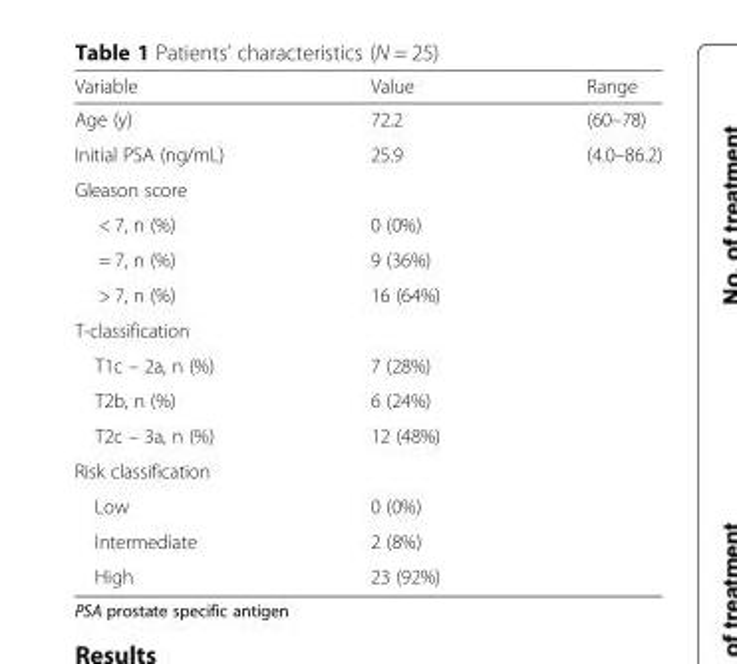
<table><thead><tr><td>Variable</td><td>Value</td><td>Range</td></tr></thead><tbody><tr><td>Age (y)</td><td>72.2</td><td>(60–78)</td></tr><tr><td>Initial PSA (ng/mL)</td><td>25.9</td><td>(4.0–86.2)</td></tr><tr><td colspan="3">Gleason score</td></tr><tr><td>&lt; 7, n (%)</td><td>0 (0%)</td><td></td></tr><tr><td>= 7, n (%)</td><td>9 (36%)</td><td></td></tr><tr><td>&gt; 7, n (%)</td><td>16 (64%)</td><td></td></tr><tr><td colspan="3">T-classification</td></tr><tr><td>T1c – 2a, n (%)</td><td>7 (28%)</td><td></td></tr><tr><td>T2b, n (%)</td><td>6 (24%)</td><td></td></tr><tr><td>T2c – 3a, n (%)</td><td>12 (48%)</td><td></td></tr><tr><td colspan="3">Risk classification</td></tr><tr><td>Low</td><td>0 (0%)</td><td></td></tr><tr><td>Intermediate</td><td>2 (8%)</td><td></td></tr><tr><td>High</td><td>23 (92%)</td><td></td></tr></tbody></table>